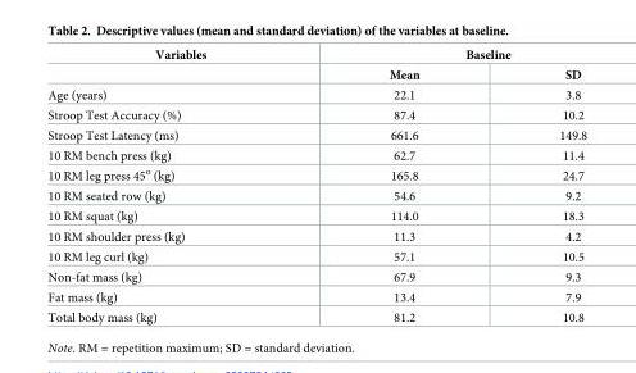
<table><thead><tr><td rowspan="2">Variables</td><td colspan="2">Baseline</td></tr><tr><td>Mean</td><td>SD</td></tr></thead><tbody><tr><td>Age (years)</td><td>22.1</td><td>3.8</td></tr><tr><td>Stroop Test Accuracy (%)</td><td>87.4</td><td>10.2</td></tr><tr><td>Stroop Test Latency (ms)</td><td>661.6</td><td>149.8</td></tr><tr><td>10 RM bench press (kg)</td><td>62.7</td><td>11.4</td></tr><tr><td>10 RM leg press 45<sup>o</sup> (kg)</td><td>165.8</td><td>24.7</td></tr><tr><td>10 RM seated row (kg)</td><td>54.6</td><td>9.2</td></tr><tr><td>10 RM squat (kg)</td><td>114.0</td><td>18.3</td></tr><tr><td>10 RM shoulder press (kg)</td><td>11.3</td><td>4.2</td></tr><tr><td>10 RM leg curl (kg)</td><td>57.1</td><td>10.5</td></tr><tr><td>Non-fat mass (kg)</td><td>67.9</td><td>9.3</td></tr><tr><td>Fat mass (kg)</td><td>13.4</td><td>7.9</td></tr><tr><td>Total body mass (kg)</td><td>81.2</td><td>10.8</td></tr></tbody></table>